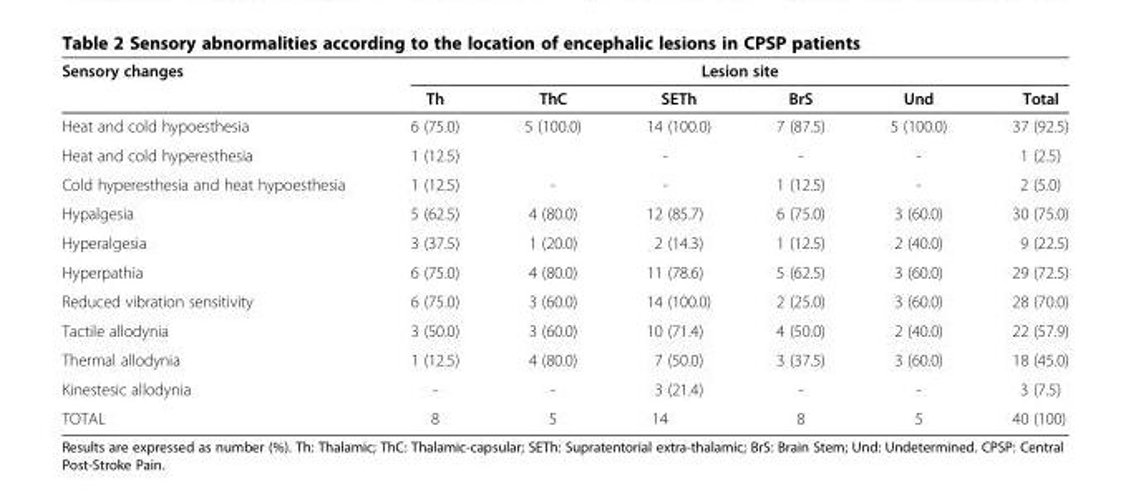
<table><thead><tr><td rowspan="2">Sensory changes</td><td colspan="6">Lesion site</td></tr><tr><td>Th</td><td>ThC</td><td>SETh</td><td>BrS</td><td>Und</td><td>Total</td></tr></thead><tbody><tr><td>Heat and cold hypoesthesia</td><td>6 (75.0)</td><td>5 (100.0)</td><td>14 (100.0)</td><td>7 (87.5)</td><td>5 (100.0)</td><td>37 (92.5)</td></tr><tr><td>Heat and cold hyperesthesia</td><td>1 (12.5)</td><td></td><td>-</td><td>-</td><td>-</td><td>1 (2.5)</td></tr><tr><td>Cold hyperesthesia and heat hypoesthesia</td><td>1 (12.5)</td><td>-</td><td>-</td><td>1 (12.5)</td><td>-</td><td>2 (5.0)</td></tr><tr><td>Hypalgesia</td><td>5 (62.5)</td><td>4 (80.0)</td><td>12 (85.7)</td><td>6 (75.0)</td><td>3 (60.0)</td><td>30 (75.0)</td></tr><tr><td>Hyperalgesia</td><td>3 (37.5)</td><td>1 (20.0)</td><td>2 (14.3)</td><td>1 (12.5)</td><td>2 (40.0)</td><td>9 (22.5)</td></tr><tr><td>Hyperpathia</td><td>6 (75.0)</td><td>4 (80.0)</td><td>11 (78.6)</td><td>5 (62.5)</td><td>3 (60.0)</td><td>29 (72.5)</td></tr><tr><td>Reduced vibration sensitivity</td><td>6 (75.0)</td><td>3 (60.0)</td><td>14 (100.0)</td><td>2 (25.0)</td><td>3 (60.0)</td><td>28 (70.0)</td></tr><tr><td>Tactile allodynia</td><td>3 (50.0)</td><td>3 (60.0)</td><td>10 (71.4)</td><td>4 (50.0)</td><td>2 (40.0)</td><td>22 (57.9)</td></tr><tr><td>Thermal allodynia</td><td>1 (12.5)</td><td>4 (80.0)</td><td>7 (50.0)</td><td>3 (37.5)</td><td>3 (60.0)</td><td>18 (45.0)</td></tr><tr><td>Kinestesic allodynia</td><td>-</td><td>-</td><td>3 (21.4)</td><td>-</td><td>-</td><td>3 (7.5)</td></tr><tr><td>TOTAL</td><td>8</td><td>5</td><td>14</td><td>8</td><td>5</td><td>40 (100)</td></tr></tbody></table>